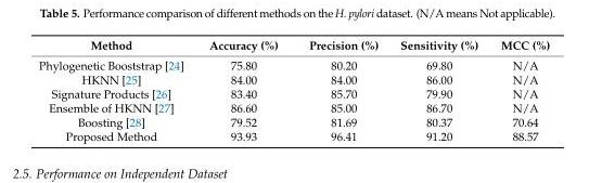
<table><thead><tr><td>Method</td><td>Accuracy (%)</td><td>Precision (%)</td><td>Sensitivity (%)</td><td>MCC (%)</td></tr></thead><tbody><tr><td>Phylogenetic Booststrap [24]</td><td>75.80</td><td>80.20</td><td>69.80</td><td>N/A</td></tr><tr><td>HKNN [25]</td><td>84.00</td><td>84.00</td><td>86.00</td><td>N/A</td></tr><tr><td>Signature Products [26]</td><td>83.40</td><td>85.70</td><td>79.90</td><td>N/A</td></tr><tr><td>Ensemble of HKNN [27]</td><td>86.60</td><td>85.00</td><td>86.70</td><td>N/A</td></tr><tr><td>Boosting [28]</td><td>79.52</td><td>81.69</td><td>80.37</td><td>70.64</td></tr><tr><td>Proposed Method</td><td>93.93</td><td>96.41</td><td>91.20</td><td>88.57</td></tr></tbody></table>